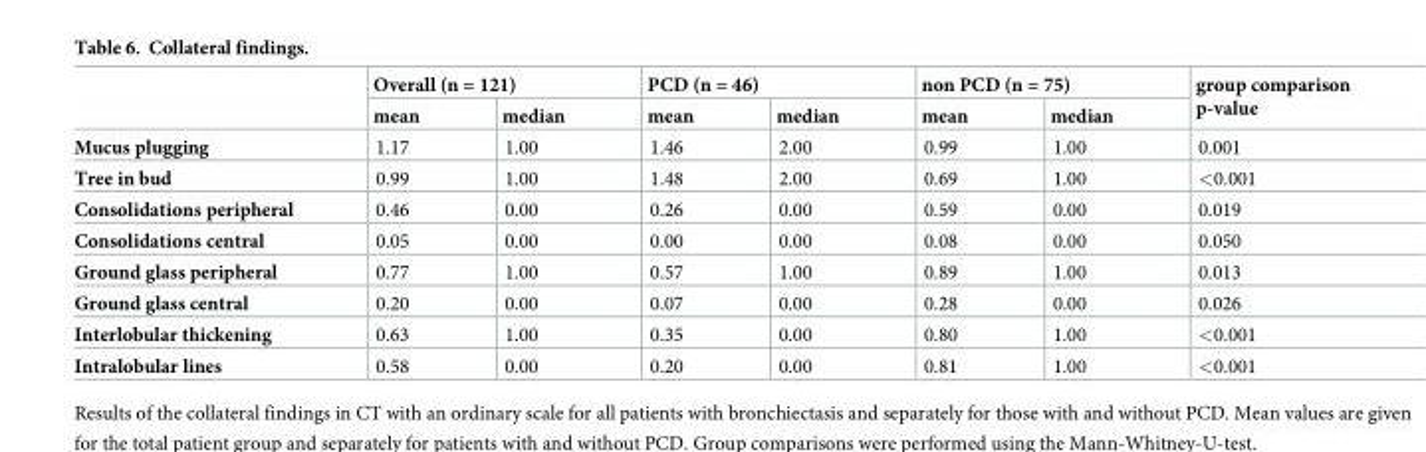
<table><thead><tr><td rowspan="2"></td><td colspan="2">Overall (n = 121)</td><td colspan="2">PCD (n = 46)</td><td colspan="2">non PCD (n = 75)</td><td rowspan="2">group comparison p-value</td></tr><tr><td>mean</td><td>median</td><td>mean</td><td>median</td><td>mean</td><td>median</td></tr></thead><tbody><tr><td>Mucus plugging</td><td>1.17</td><td>1.00</td><td>1.46</td><td>2.00</td><td>0.99</td><td>1.00</td><td>0.001</td></tr><tr><td>Tree in bud</td><td>0.99</td><td>1.00</td><td>1.48</td><td>2.00</td><td>0.69</td><td>1.00</td><td>&lt;0.001</td></tr><tr><td>Consolidations peripheral</td><td>0.46</td><td>0.00</td><td>0.26</td><td>0.00</td><td>0.59</td><td>0.00</td><td>0.019</td></tr><tr><td>Consolidations central</td><td>0.05</td><td>0.00</td><td>0.00</td><td>0.00</td><td>0.08</td><td>0.00</td><td>0.050</td></tr><tr><td>Ground glass peripheral</td><td>0.77</td><td>1.00</td><td>0.57</td><td>1.00</td><td>0.89</td><td>1.00</td><td>0.013</td></tr><tr><td>Ground glass central</td><td>0.20</td><td>0.00</td><td>0.07</td><td>0.00</td><td>0.28</td><td>0.00</td><td>0.026</td></tr><tr><td>Interlobular thickening</td><td>0.63</td><td>1.00</td><td>0.35</td><td>0.00</td><td>0.80</td><td>1.00</td><td>&lt;0.001</td></tr><tr><td>Intralobular lines</td><td>0.58</td><td>0.00</td><td>0.20</td><td>0.00</td><td>0.81</td><td>1.00</td><td>&lt;0.001</td></tr></tbody></table>